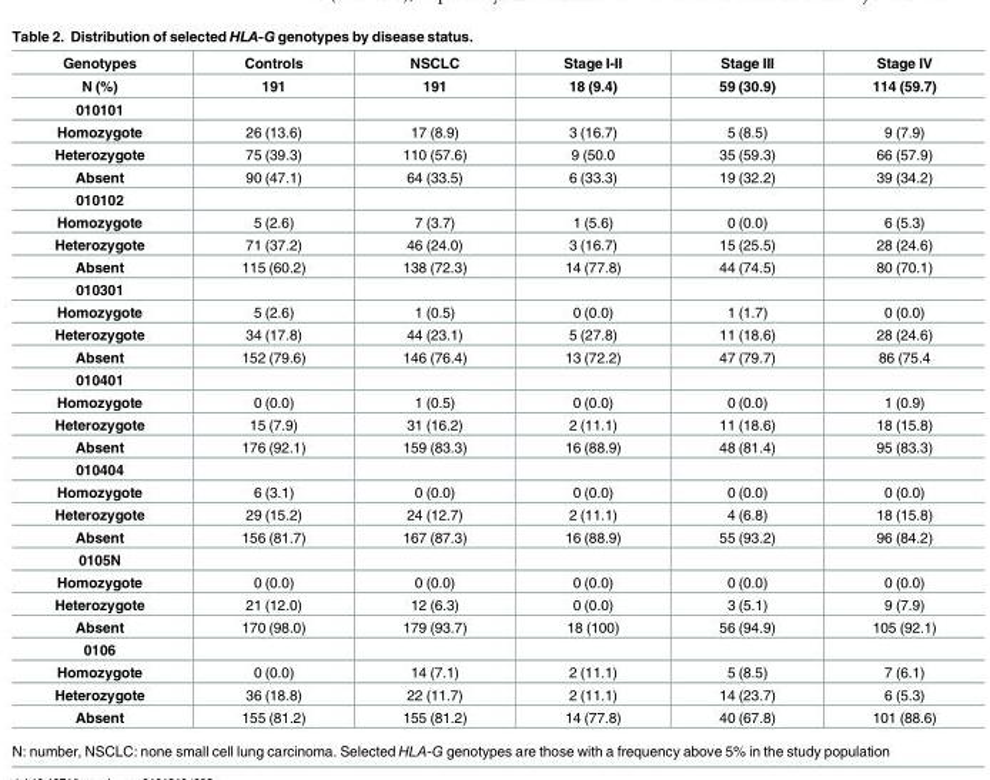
<table><thead><tr><td rowspan="2">Genotypes N (%)</td><td rowspan="2">Controls 191</td><td rowspan="2">NSCLC 191</td><td rowspan="2">Stage I-II 18 (9.4)</td><td rowspan="2">Stage III 59 (30.9)</td><td rowspan="2">Stage IV 114 (59.7)</td></tr><tr></tr></thead><tbody><tr><td colspan="6">010101</td></tr><tr><td>Homozygote</td><td>26 (13.6)</td><td>17 (8.9)</td><td>3 (16.7)</td><td>5 (8.5)</td><td>9 (7.9)</td></tr><tr><td>Heterozygote</td><td>75 (39.3)</td><td>110 (57.6)</td><td>9 (50.0</td><td>35 (59.3)</td><td>66 (57.9)</td></tr><tr><td>Absent</td><td>90 (47.1)</td><td>64 (33.5)</td><td>6 (33.3)</td><td>19 (32.2)</td><td>39 (34.2)</td></tr><tr><td colspan="6">010102</td></tr><tr><td>Homozygote</td><td>5 (2.6)</td><td>7 (3.7)</td><td>1 (5.6)</td><td>0 (0.0)</td><td>6 (5.3)</td></tr><tr><td>Heterozygote</td><td>71 (37.2)</td><td>46 (24.0)</td><td>3 (16.7)</td><td>15 (25.5)</td><td>28 (24.6)</td></tr><tr><td>Absent</td><td>115 (60.2)</td><td>138 (72.3)</td><td>14 (77.8)</td><td>44 (74.5)</td><td>80 (70.1)</td></tr><tr><td colspan="6">010301</td></tr><tr><td>Homozygote</td><td>5 (2.6)</td><td>1 (0.5)</td><td>0 (0.0)</td><td>1 (1.7)</td><td>0 (0.0)</td></tr><tr><td>Heterozygote</td><td>34 (17.8)</td><td>44 (23.1)</td><td>5 (27.8)</td><td>11 (18.6)</td><td>28 (24.6)</td></tr><tr><td>Absent</td><td>152 (79.6)</td><td>146 (76.4)</td><td>13 (72.2)</td><td>47 (79.7)</td><td>86 (75.4</td></tr><tr><td colspan="6">010401</td></tr><tr><td>Homozygote</td><td>0 (0.0)</td><td>1 (0.5)</td><td>0 (0.0)</td><td>0 (0.0)</td><td>1 (0.9)</td></tr><tr><td>Heterozygote</td><td>15 (7.9)</td><td>31 (16.2)</td><td>2 (11.1)</td><td>11 (18.6)</td><td>18 (15.8)</td></tr><tr><td>Absent</td><td>176 (92.1)</td><td>159 (83.3)</td><td>16 (88.9)</td><td>48 (81.4)</td><td>95 (83.3)</td></tr><tr><td colspan="6">010404</td></tr><tr><td>Homozygote</td><td>6 (3.1)</td><td>0 (0.0)</td><td>0 (0.0)</td><td>0 (0.0)</td><td>0 (0.0)</td></tr><tr><td>Heterozygote</td><td>29 (15.2)</td><td>24 (12.7)</td><td>2 (11.1)</td><td>4 (6.8)</td><td>18 (15.8)</td></tr><tr><td>Absent</td><td>156 (81.7)</td><td>167 (87.3)</td><td>16 (88.9)</td><td>55 (93.2)</td><td>96 (84.2)</td></tr><tr><td colspan="6">0105N</td></tr><tr><td>Homozygote</td><td>0 (0.0)</td><td>0 (0.0)</td><td>0 (0.0)</td><td>0 (0.0)</td><td>0 (0.0)</td></tr><tr><td>Heterozygote</td><td>21 (12.0)</td><td>12 (6.3)</td><td>0 (0.0)</td><td>3 (5.1)</td><td>9 (7.9)</td></tr><tr><td>Absent</td><td>170 (98.0)</td><td>179 (93.7)</td><td>18 (100)</td><td>56 (94.9)</td><td>105 (92.1)</td></tr><tr><td colspan="6">0106</td></tr><tr><td>Homozygote</td><td>0 (0.0)</td><td>14 (7.1)</td><td>2 (11.1)</td><td>5 (8.5)</td><td>7 (6.1)</td></tr><tr><td>Heterozygote</td><td>36 (18.8)</td><td>22 (11.7)</td><td>2 (11.1)</td><td>14 (23.7)</td><td>6 (5.3)</td></tr><tr><td>Absent</td><td>155 (81.2)</td><td>155 (81.2)</td><td>14 (77.8)</td><td>40 (67.8)</td><td>101 (88.6)</td></tr></tbody></table>